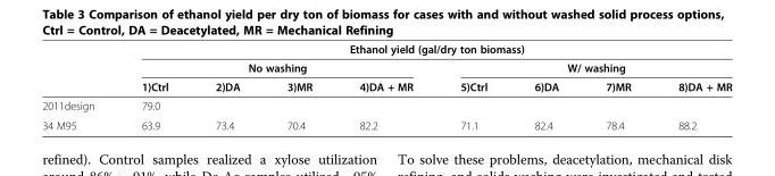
<table><thead><tr><td rowspan="3"></td><td colspan="8">Ethanol yield (gal/dry ton biomass)</td></tr><tr><td colspan="4">No washing</td><td colspan="4">W/ washing</td></tr><tr><td>1)Ctrl</td><td>2)DA</td><td>3)MR</td><td>4)DA + MR</td><td>5)Ctrl</td><td>6)DA</td><td>7)MR</td><td>8)DA + MR</td></tr></thead><tbody><tr><td>2011design</td><td>79.0</td><td></td><td></td><td></td><td></td><td></td><td></td><td></td></tr><tr><td>34 M95</td><td>63.9</td><td>73.4</td><td>70.4</td><td>82.2</td><td>71.1</td><td>82.4</td><td>78.4</td><td>88.2</td></tr></tbody></table>